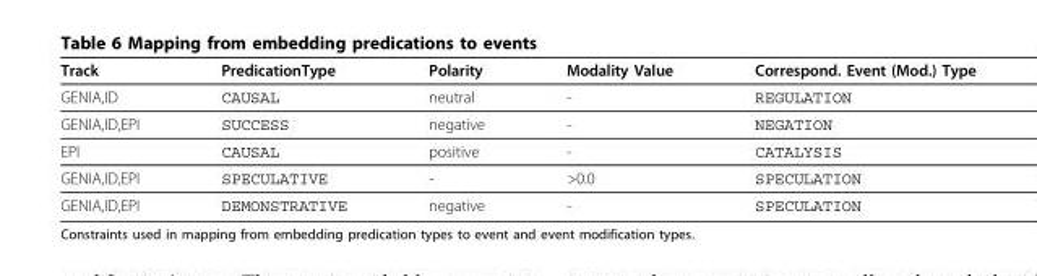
<table><thead><tr><td>Track</td><td>PredicationType</td><td>Polarity</td><td>Modality Value</td><td>Correspond. Event (Mod.) Type</td></tr></thead><tbody><tr><td>GENIA,ID</td><td>CAUSAL</td><td>neutral</td><td>-</td><td>REGULATION</td></tr><tr><td>GENIA,ID,EPI</td><td>SUCCESS</td><td>negative</td><td>-</td><td>NEGATION</td></tr><tr><td>EPI</td><td>CAUSAL</td><td>positive</td><td>-</td><td>CATALYSIS</td></tr><tr><td>GENIA,ID,EPI</td><td>SPECULATIVE</td><td>-</td><td>&gt;0.0</td><td>SPECULATION</td></tr><tr><td>GENIA,ID,EPI</td><td>DEMONSTRATIVE</td><td>negative</td><td>-</td><td>SPECULATION</td></tr></tbody></table>